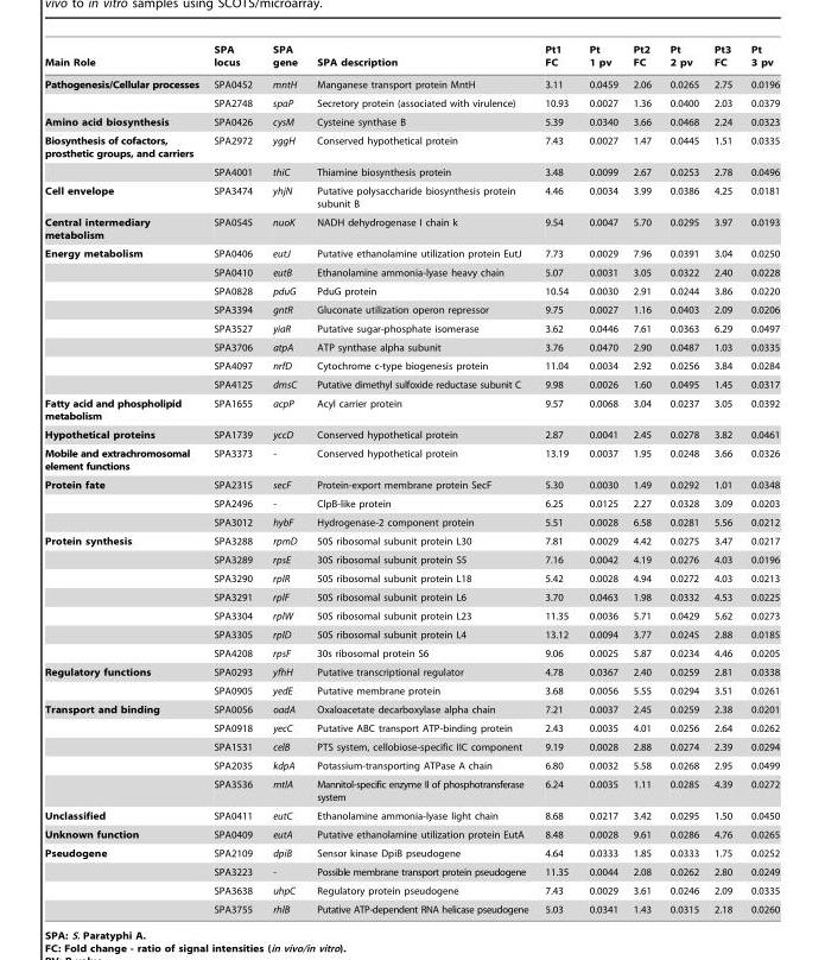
<table><thead><tr><td>Main Role</td><td>SPA locus</td><td>SPA gene</td><td>SPA description</td><td>Pt1 FC</td><td>Pt 1 pv</td><td>Pt2 FC</td><td>Pt 2 pv</td><td>Pt3 FC</td><td>Pt 3 pv</td></tr></thead><tbody><tr><td rowspan="2">Pathogenesis/Cellular processes</td><td>SPA0452</td><td>mntH</td><td>Manganese transport protein MntH</td><td>3.11</td><td>0.0459</td><td>2.06</td><td>0.0265</td><td>2.75</td><td>0.0196</td></tr><tr><td>SPA2748</td><td>spaP</td><td>Secretory protein (associated with virulence)</td><td>10.93</td><td>0.0027</td><td>1.36</td><td>0.0400</td><td>2.03</td><td>0.0379</td></tr><tr><td>Amino acid biosynthesis</td><td>SPA0426</td><td>cysM</td><td>Cysteine synthase B</td><td>5.39</td><td>0.0340</td><td>3.66</td><td>0.0468</td><td>2.24</td><td>0.0323</td></tr><tr><td rowspan="2">Biosynthesis of cofactors, prosthetic groups, and carriers</td><td>SPA2972</td><td>yggH</td><td>Conserved hypothetical protein</td><td>7.43</td><td>0.0027</td><td>1.47</td><td>0.0445</td><td>1.51</td><td>0.0335</td></tr><tr><td>SPA4001</td><td>thiC</td><td>Thiamine biosynthesis protein</td><td>3.48</td><td>0.0099</td><td>2.67</td><td>0.0253</td><td>2.78</td><td>0.0496</td></tr><tr><td>Cell envelope</td><td>SPA3474</td><td>yhjN</td><td>Putative polysaccharide biosynthesis protein subunit B</td><td>4.46</td><td>0.0034</td><td>3.99</td><td>0.0386</td><td>4.25</td><td>0.0181</td></tr><tr><td>Central intermediary metabolism</td><td>SPA0545</td><td>nuoK</td><td>NADH dehydrogenase I chain k</td><td>9.54</td><td>0.0047</td><td>5.70</td><td>0.0295</td><td>3.97</td><td>0.0193</td></tr><tr><td rowspan="8">Energy metabolism</td><td>SPA0406</td><td>eutJ</td><td>Putative ethanolamine utilization protein EutJ</td><td>7.73</td><td>0.0029</td><td>7.96</td><td>0.0391</td><td>3.04</td><td>0.0250</td></tr><tr><td>SPA0410</td><td>eutB</td><td>Ethanolamine ammonia-lyase heavy chain</td><td>5.07</td><td>0.0031</td><td>3.05</td><td>0.0322</td><td>2.40</td><td>0.0228</td></tr><tr><td>SPA0828</td><td>pduG</td><td>PduG protein</td><td>10.54</td><td>0.0030</td><td>2.91</td><td>0.0244</td><td>3.86</td><td>0.0220</td></tr><tr><td>SPA3394</td><td>gntR</td><td>Gluconate utilization operon repressor</td><td>9.75</td><td>0.0027</td><td>1.16</td><td>0.0403</td><td>2.09</td><td>0.0206</td></tr><tr><td>SPA3527</td><td>yiaR</td><td>Putative sugar-phosphate isomerase</td><td>3.62</td><td>0.0446</td><td>7.61</td><td>0.0363</td><td>6.29</td><td>0.0497</td></tr><tr><td>SPA3706</td><td>atpA</td><td>ATP synthase alpha subunit</td><td>3.76</td><td>0.0470</td><td>2.90</td><td>0.0487</td><td>1.03</td><td>0.0335</td></tr><tr><td>SPA4097</td><td>nrfD</td><td>Cytochrome c-type biogenesis protein</td><td>11.04</td><td>0.0034</td><td>2.92</td><td>0.0256</td><td>3.84</td><td>0.0284</td></tr><tr><td>SPA4125</td><td>dmsC</td><td>Putative dimethyl sulfoxide reductase subunit C</td><td>9.98</td><td>0.0026</td><td>1.60</td><td>0.0495</td><td>1.45</td><td>0.0317</td></tr><tr><td>Fatty acid and phospholipid metabolism</td><td>SPA1655</td><td>acpP</td><td>Acyl carrier protein</td><td>9.57</td><td>0.0068</td><td>3.04</td><td>0.0237</td><td>3.05</td><td>0.0392</td></tr><tr><td>Hypothetical proteins</td><td>SPA1739</td><td>yccD</td><td>Conserved hypothetical protein</td><td>2.87</td><td>0.0041</td><td>2.45</td><td>0.0278</td><td>3.82</td><td>0.0461</td></tr><tr><td>Mobile and extrachromosomal element functions</td><td>SPA3373</td><td>-</td><td>Conserved hypothetical protein</td><td>13.19</td><td>0.0037</td><td>1.95</td><td>0.0248</td><td>3.66</td><td>0.0326</td></tr><tr><td rowspan="3">Protein fate</td><td>SPA2315</td><td>secF</td><td>Protein-export membrane protein SecF</td><td>5.30</td><td>0.0030</td><td>1.49</td><td>0.0292</td><td>1.01</td><td>0.0348</td></tr><tr><td>SPA2496</td><td>-</td><td>ClpB-like protein</td><td>6.25</td><td>0.0125</td><td>2.27</td><td>0.0328</td><td>3.09</td><td>0.0203</td></tr><tr><td>SPA3012</td><td>hybF</td><td>Hydrogenase-2 component protein</td><td>5.51</td><td>0.0028</td><td>6.58</td><td>0.0281</td><td>5.56</td><td>0.0212</td></tr><tr><td rowspan="7">Protein synthesis</td><td>SPA3288</td><td>rpmD</td><td>50S ribosomal subunit protein L30</td><td>7.81</td><td>0.0029</td><td>4.42</td><td>0.0275</td><td>3.47</td><td>0.0217</td></tr><tr><td>SPA3289</td><td>rpsE</td><td>30S ribosomal subunit protein S5</td><td>7.16</td><td>0.0042</td><td>4.19</td><td>0.0276</td><td>4.03</td><td>0.0196</td></tr><tr><td>SPA3290</td><td>rplR</td><td>50S ribosomal subunit protein L18</td><td>5.42</td><td>0.0028</td><td>4.94</td><td>0.0272</td><td>4.03</td><td>0.0213</td></tr><tr><td>SPA3291</td><td>rplF</td><td>50S ribosomal subunit protein L6</td><td>3.70</td><td>0.0463</td><td>1.98</td><td>0.0332</td><td>4.53</td><td>0.0225</td></tr><tr><td>SPA3304</td><td>rplW</td><td>50S ribosomal subunit protein L23</td><td>11.35</td><td>0.0036</td><td>5.71</td><td>0.0429</td><td>5.62</td><td>0.0273</td></tr><tr><td>SPA3305</td><td>rplD</td><td>50S ribosomal subunit protein L4</td><td>13.12</td><td>0.0094</td><td>3.77</td><td>0.0245</td><td>2.88</td><td>0.0185</td></tr><tr><td>SPA4208</td><td>rpsF</td><td>30s ribosomal protein S6</td><td>9.06</td><td>0.0025</td><td>5.87</td><td>0.0234</td><td>4.46</td><td>0.0205</td></tr><tr><td rowspan="2">Regulatory functions</td><td>SPA0293</td><td>yfhH</td><td>Putative transcriptional regulator</td><td>4.78</td><td>0.0367</td><td>2.40</td><td>0.0259</td><td>2.81</td><td>0.0338</td></tr><tr><td>SPA0905</td><td>yedE</td><td>Putative membrane protein</td><td>3.68</td><td>0.0056</td><td>5.55</td><td>0.0294</td><td>3.51</td><td>0.0261</td></tr><tr><td rowspan="5">Transport and binding</td><td>SPA0056</td><td>oadA</td><td>Oxaloacetate decarboxylase alpha chain</td><td>7.21</td><td>0.0037</td><td>2.45</td><td>0.0259</td><td>2.38</td><td>0.0201</td></tr><tr><td>SPA0918</td><td>yecC</td><td>Putative ABC transport ATP-binding protein</td><td>2.43</td><td>0.0035</td><td>4.01</td><td>0.0256</td><td>2.64</td><td>0.0262</td></tr><tr><td>SPA1531</td><td>celB</td><td>PTS system, cellobiose-specific IIC component</td><td>9.19</td><td>0.0028</td><td>2.88</td><td>0.0274</td><td>2.39</td><td>0.0294</td></tr><tr><td>SPA2035</td><td>kdpA</td><td>Potassium-transporting ATPase A chain</td><td>6.80</td><td>0.0032</td><td>5.58</td><td>0.0268</td><td>2.95</td><td>0.0499</td></tr><tr><td>SPA3536</td><td>mtlA</td><td>Mannitol-specific enzyme II of phosphotransferase system</td><td>6.24</td><td>0.0035</td><td>1.11</td><td>0.0285</td><td>4.39</td><td>0.0272</td></tr><tr><td>Unclassified</td><td>SPA0411</td><td>eutC</td><td>Ethanolamine ammonia-lyase light chain</td><td>8.68</td><td>0.0217</td><td>3.42</td><td>0.0295</td><td>1.50</td><td>0.0450</td></tr><tr><td>Unknown function</td><td>SPA0409</td><td>eutA</td><td>Putative ethanolamine utilization protein EutA</td><td>8.48</td><td>0.0028</td><td>9.61</td><td>0.0286</td><td>4.76</td><td>0.0265</td></tr><tr><td rowspan="4">Pseudogene</td><td>SPA2109</td><td>dpiB</td><td>Sensor kinase DpiB pseudogene</td><td>4.64</td><td>0.0333</td><td>1.85</td><td>0.0333</td><td>1.75</td><td>0.0252</td></tr><tr><td>SPA3223</td><td>-</td><td>Possible membrane transport protein pseudogene</td><td>11.35</td><td>0.0044</td><td>2.08</td><td>0.0262</td><td>2.80</td><td>0.0249</td></tr><tr><td>SPA3638</td><td>uhpC</td><td>Regulatory protein pseudogene</td><td>7.43</td><td>0.0029</td><td>3.61</td><td>0.0246</td><td>2.09</td><td>0.0335</td></tr><tr><td>SPA3755</td><td>rhlB</td><td>Putative ATP-dependent RNA helicase pseudogene</td><td>5.03</td><td>0.0341</td><td>1.43</td><td>0.0315</td><td>2.18</td><td>0.0260</td></tr></tbody></table>